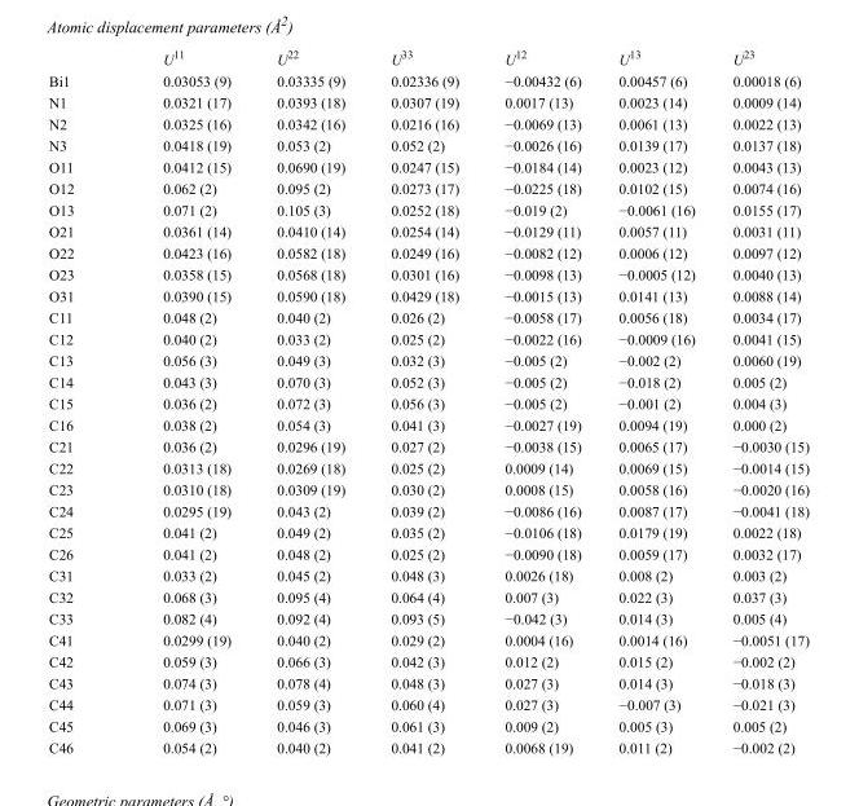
<table><thead><tr><td></td><td>U<sup>11</sup></td><td>U<sup>22</sup></td><td>U<sup>33</sup></td><td>U<sup>12</sup></td><td>U<sup>13</sup></td><td>U<sup>23</sup></td></tr></thead><tbody><tr><td>Bi1</td><td>0.03053 (9)</td><td>0.03335 (9)</td><td>0.02336 (9)</td><td>−0.00432 (6)</td><td>0.00457 (6)</td><td>0.00018 (6)</td></tr><tr><td>N1</td><td>0.0321 (17)</td><td>0.0393 (18)</td><td>0.0307 (19)</td><td>0.0017 (13)</td><td>0.0023 (14)</td><td>0.0009 (14)</td></tr><tr><td>N2</td><td>0.0325 (16)</td><td>0.0342 (16)</td><td>0.0216 (16)</td><td>−0.0069 (13)</td><td>0.0061 (13)</td><td>0.0022 (13)</td></tr><tr><td>N3</td><td>0.0418 (19)</td><td>0.053 (2)</td><td>0.052 (2)</td><td>−0.0026 (16)</td><td>0.0139 (17)</td><td>0.0137 (18)</td></tr><tr><td>O11</td><td>0.0412 (15)</td><td>0.0690 (19)</td><td>0.0247 (15)</td><td>−0.0184 (14)</td><td>0.0023 (12)</td><td>0.0043 (13)</td></tr><tr><td>O12</td><td>0.062 (2)</td><td>0.095 (2)</td><td>0.0273 (17)</td><td>−0.0225 (18)</td><td>0.0102 (15)</td><td>0.0074 (16)</td></tr><tr><td>O13</td><td>0.071 (2)</td><td>0.105 (3)</td><td>0.0252 (18)</td><td>−0.019 (2)</td><td>−0.0061 (16)</td><td>0.0155 (17)</td></tr><tr><td>O21</td><td>0.0361 (14)</td><td>0.0410 (14)</td><td>0.0254 (14)</td><td>−0.0129 (11)</td><td>0.0057 (11)</td><td>0.0031 (11)</td></tr><tr><td>O22</td><td>0.0423 (16)</td><td>0.0582 (18)</td><td>0.0249 (16)</td><td>−0.0082 (12)</td><td>0.0006 (12)</td><td>0.0097 (12)</td></tr><tr><td>O23</td><td>0.0358 (15)</td><td>0.0568 (18)</td><td>0.0301 (16)</td><td>−0.0098 (13)</td><td>−0.0005 (12)</td><td>0.0040 (13)</td></tr><tr><td>O31</td><td>0.0390 (15)</td><td>0.0590 (18)</td><td>0.0429 (18)</td><td>−0.0015 (13)</td><td>0.0141 (13)</td><td>0.0088 (14)</td></tr><tr><td>C11</td><td>0.048 (2)</td><td>0.040 (2)</td><td>0.026 (2)</td><td>−0.0058 (17)</td><td>0.0056 (18)</td><td>0.0034 (17)</td></tr><tr><td>C12</td><td>0.040 (2)</td><td>0.033 (2)</td><td>0.025 (2)</td><td>−0.0022 (16)</td><td>−0.0009 (16)</td><td>0.0041 (15)</td></tr><tr><td>C13</td><td>0.056 (3)</td><td>0.049 (3)</td><td>0.032 (3)</td><td>−0.005 (2)</td><td>−0.002 (2)</td><td>0.0060 (19)</td></tr><tr><td>C14</td><td>0.043 (3)</td><td>0.070 (3)</td><td>0.052 (3)</td><td>−0.005 (2)</td><td>−0.018 (2)</td><td>0.005 (2)</td></tr><tr><td>C15</td><td>0.036 (2)</td><td>0.072 (3)</td><td>0.056 (3)</td><td>−0.005 (2)</td><td>−0.001 (2)</td><td>0.004 (3)</td></tr><tr><td>C16</td><td>0.038 (2)</td><td>0.054 (3)</td><td>0.041 (3)</td><td>−0.0027 (19)</td><td>0.0094 (19)</td><td>0.000 (2)</td></tr><tr><td>C21</td><td>0.036 (2)</td><td>0.0296 (19)</td><td>0.027 (2)</td><td>−0.0038 (15)</td><td>0.0065 (17)</td><td>−0.0030 (15)</td></tr><tr><td>C22</td><td>0.0313 (18)</td><td>0.0269 (18)</td><td>0.025 (2)</td><td>0.0009 (14)</td><td>0.0069 (15)</td><td>−0.0014 (15)</td></tr><tr><td>C23</td><td>0.0310 (18)</td><td>0.0309 (19)</td><td>0.030 (2)</td><td>0.0008 (15)</td><td>0.0058 (16)</td><td>−0.0020 (16)</td></tr><tr><td>C24</td><td>0.0295 (19)</td><td>0.043 (2)</td><td>0.039 (2)</td><td>−0.0086 (16)</td><td>0.0087 (17)</td><td>−0.0041 (18)</td></tr><tr><td>C25</td><td>0.041 (2)</td><td>0.049 (2)</td><td>0.035 (2)</td><td>−0.0106 (18)</td><td>0.0179 (19)</td><td>0.0022 (18)</td></tr><tr><td>C26</td><td>0.041 (2)</td><td>0.048 (2)</td><td>0.025 (2)</td><td>−0.0090 (18)</td><td>0.0059 (17)</td><td>0.0032 (17)</td></tr><tr><td>C31</td><td>0.033 (2)</td><td>0.045 (2)</td><td>0.048 (3)</td><td>0.0026 (18)</td><td>0.008 (2)</td><td>0.003 (2)</td></tr><tr><td>C32</td><td>0.068 (3)</td><td>0.095 (4)</td><td>0.064 (4)</td><td>0.007 (3)</td><td>0.022 (3)</td><td>0.037 (3)</td></tr><tr><td>C33</td><td>0.082 (4)</td><td>0.092 (4)</td><td>0.093 (5)</td><td>−0.042 (3)</td><td>0.014 (3)</td><td>0.005 (4)</td></tr><tr><td>C41</td><td>0.0299 (19)</td><td>0.040 (2)</td><td>0.029 (2)</td><td>0.0004 (16)</td><td>0.0014 (16)</td><td>−0.0051 (17)</td></tr><tr><td>C42</td><td>0.059 (3)</td><td>0.066 (3)</td><td>0.042 (3)</td><td>0.012 (2)</td><td>0.015 (2)</td><td>−0.002 (2)</td></tr><tr><td>C43</td><td>0.074 (3)</td><td>0.078 (4)</td><td>0.048 (3)</td><td>0.027 (3)</td><td>0.014 (3)</td><td>−0.018 (3)</td></tr><tr><td>C44</td><td>0.071 (3)</td><td>0.059 (3)</td><td>0.060 (4)</td><td>0.027 (3)</td><td>−0.007 (3)</td><td>−0.021 (3)</td></tr><tr><td>C45</td><td>0.069 (3)</td><td>0.046 (3)</td><td>0.061 (3)</td><td>0.009 (2)</td><td>0.005 (3)</td><td>0.005 (2)</td></tr><tr><td>C46</td><td>0.054 (2)</td><td>0.040 (2)</td><td>0.041 (2)</td><td>0.0068 (19)</td><td>0.011 (2)</td><td>−0.002 (2)</td></tr></tbody></table>